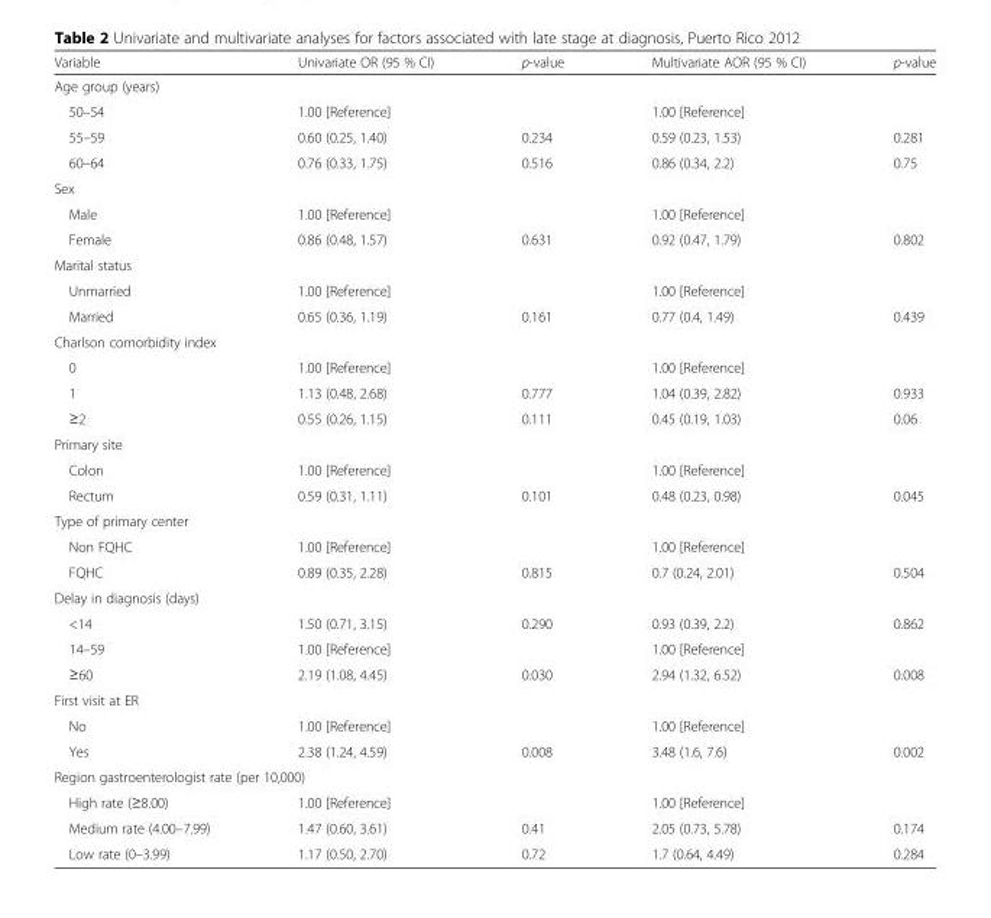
<table><thead><tr><td>Variable</td><td>Univariate OR (95 % CI)</td><td>p-value</td><td>Multivariate AOR (95 % CI)</td><td>p-value</td></tr></thead><tbody><tr><td colspan="5">Age group (years)</td></tr><tr><td>50–54</td><td>1.00 [Reference]</td><td></td><td>1.00 [Reference]</td><td></td></tr><tr><td>55–59</td><td>0.60 (0.25, 1.40)</td><td>0.234</td><td>0.59 (0.23, 1.53)</td><td>0.281</td></tr><tr><td>60–64</td><td>0.76 (0.33, 1.75)</td><td>0.516</td><td>0.86 (0.34, 2.2)</td><td>0.75</td></tr><tr><td colspan="5">Sex</td></tr><tr><td>Male</td><td>1.00 [Reference]</td><td></td><td>1.00 [Reference]</td><td></td></tr><tr><td>Female</td><td>0.86 (0.48, 1.57)</td><td>0.631</td><td>0.92 (0.47, 1.79)</td><td>0.802</td></tr><tr><td colspan="5">Marital status</td></tr><tr><td>Unmarried</td><td>1.00 [Reference]</td><td></td><td>1.00 [Reference]</td><td></td></tr><tr><td>Married</td><td>0.65 (0.36, 1.19)</td><td>0.161</td><td>0.77 (0.4, 1.49)</td><td>0.439</td></tr><tr><td colspan="5">Charlson comorbidity index</td></tr><tr><td>0</td><td>1.00 [Reference]</td><td></td><td>1.00 [Reference]</td><td></td></tr><tr><td>1</td><td>1.13 (0.48, 2.68)</td><td>0.777</td><td>1.04 (0.39, 2.82)</td><td>0.933</td></tr><tr><td>≥2</td><td>0.55 (0.26, 1.15)</td><td>0.111</td><td>0.45 (0.19, 1.03)</td><td>0.06</td></tr><tr><td colspan="5">Primary site</td></tr><tr><td>Colon</td><td>1.00 [Reference]</td><td></td><td>1.00 [Reference]</td><td></td></tr><tr><td>Rectum</td><td>0.59 (0.31, 1.11)</td><td>0.101</td><td>0.48 (0.23, 0.98)</td><td>0.045</td></tr><tr><td colspan="5">Type of primary center</td></tr><tr><td>Non FQHC</td><td>1.00 [Reference]</td><td></td><td>1.00 [Reference]</td><td></td></tr><tr><td>FQHC</td><td>0.89 (0.35, 2.28)</td><td>0.815</td><td>0.7 (0.24, 2.01)</td><td>0.504</td></tr><tr><td colspan="5">Delay in diagnosis (days)</td></tr><tr><td>&lt;14</td><td>1.50 (0.71, 3.15)</td><td>0.290</td><td>0.93 (0.39, 2.2)</td><td>0.862</td></tr><tr><td>14–59</td><td>1.00 [Reference]</td><td></td><td>1.00 [Reference]</td><td></td></tr><tr><td>≥60</td><td>2.19 (1.08, 4.45)</td><td>0.030</td><td>2.94 (1.32, 6.52)</td><td>0.008</td></tr><tr><td colspan="5">First visit at ER</td></tr><tr><td>No</td><td>1.00 [Reference]</td><td></td><td>1.00 [Reference]</td><td></td></tr><tr><td>Yes</td><td>2.38 (1.24, 4.59)</td><td>0.008</td><td>3.48 (1.6, 7.6)</td><td>0.002</td></tr><tr><td colspan="5">Region gastroenterologist rate (per 10,000)</td></tr><tr><td>High rate (≥8.00)</td><td>1.00 [Reference]</td><td></td><td>1.00 [Reference]</td><td></td></tr><tr><td>Medium rate (4.00–7.99)</td><td>1.47 (0.60, 3.61)</td><td>0.41</td><td>2.05 (0.73, 5.78)</td><td>0.174</td></tr><tr><td>Low rate (0–3.99)</td><td>1.17 (0.50, 2.70)</td><td>0.72</td><td>1.7 (0.64, 4.49)</td><td>0.284</td></tr></tbody></table>